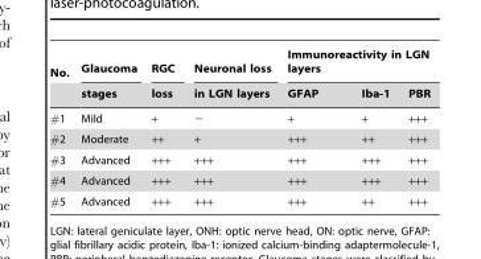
<table><thead><tr><td rowspan="2">No.</td><td rowspan="2">Glaucoma stages</td><td rowspan="2">RGC loss</td><td rowspan="2">Neuronal loss in LGN layers</td><td colspan="3">Immunoreactivity in LGN layers</td></tr><tr><td>GFAP</td><td>Iba-1</td><td>PBR</td></tr></thead><tbody><tr><td>#1</td><td>Mild</td><td>+</td><td>−</td><td>+</td><td>+</td><td>+++</td></tr><tr><td>#2</td><td>Moderate</td><td>++</td><td>+</td><td>+++</td><td>++</td><td>+++</td></tr><tr><td>#3</td><td>Advanced</td><td>+++</td><td>+++</td><td>+++</td><td>+++</td><td>+++</td></tr><tr><td>#4</td><td>Advanced</td><td>+++</td><td>+++</td><td>+++</td><td>+++</td><td>+++</td></tr><tr><td>#5</td><td>Advanced</td><td>+++</td><td>+++</td><td>+++</td><td>++</td><td>+++</td></tr></tbody></table>